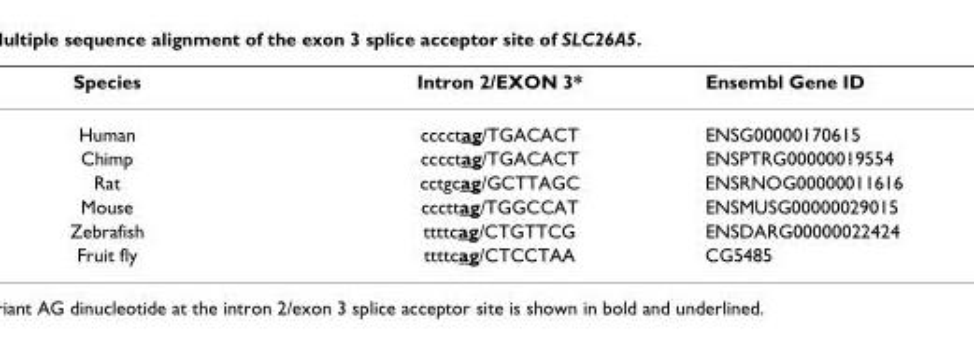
<table><thead><tr><td>Species</td><td>Intron 2/EXON 3*</td><td>Ensembl Gene ID</td></tr></thead><tbody><tr><td>Human</td><td>cccctag/TGACACT</td><td>ENSG00000170615</td></tr><tr><td>Chimp</td><td>cccctag/TGACACT</td><td>ENSPTRG00000019554</td></tr><tr><td>Rat</td><td>cctgcag/GCTTAGC</td><td>ENSRNOG00000011616</td></tr><tr><td>Mouse</td><td>cccttag/TGGCCAT</td><td>ENSMUSG00000029015</td></tr><tr><td>Zebrafish</td><td>ttttcag/CTGTTCG</td><td>ENSDARG00000022424</td></tr><tr><td>Fruit fly</td><td>ttttcag/CTCCTAA</td><td>CG5485</td></tr></tbody></table>